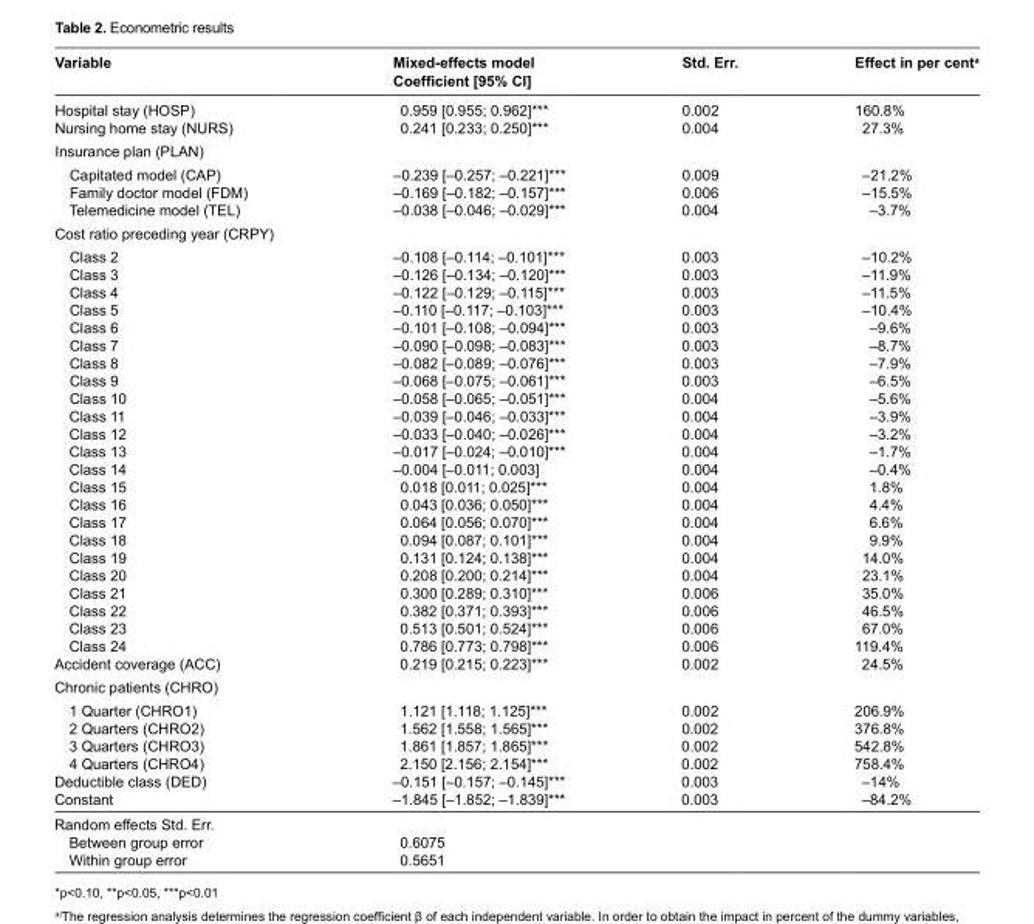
<table><thead><tr><td>Variable</td><td>Mixed-effects model Coefficient [95% CI]</td><td>Std. Err.</td><td>Effect in per cent<sup>a</sup></td></tr></thead><tbody><tr><td>Hospital stay (HOSP)</td><td>0.959 [0.955; 0.962]***</td><td>0.002</td><td>160.8%</td></tr><tr><td>Nursing home stay (NURS)</td><td>0.241 [0.233; 0.250]***</td><td>0.004</td><td>27.3%</td></tr><tr><td colspan="4">Insurance plan (PLAN)</td></tr><tr><td>Capitated model (CAP)</td><td>–0.239 [–0.257; –0.221]***</td><td>0.009</td><td>–21.2%</td></tr><tr><td>Family doctor model (FDM)</td><td>–0.169 [–0.182; –0.157]***</td><td>0.006</td><td>–15.5%</td></tr><tr><td>Telemedicine model (TEL)</td><td>–0.038 [–0.046; –0.029]***</td><td>0.004</td><td>–3.7%</td></tr><tr><td colspan="4">Cost ratio preceding year (CRPY)</td></tr><tr><td>Class 2</td><td>–0.108 [–0.114; –0.101]***</td><td>0.003</td><td>–10.2%</td></tr><tr><td>Class 3</td><td>–0.126 [–0.134; –0.120]***</td><td>0.003</td><td>–11.9%</td></tr><tr><td>Class 4</td><td>–0.122 [–0.129; –0.115]***</td><td>0.003</td><td>–11.5%</td></tr><tr><td>Class 5</td><td>–0.110 [–0.117; –0.103]***</td><td>0.003</td><td>–10.4%</td></tr><tr><td>Class 6</td><td>–0.101 [–0.108; –0.094]***</td><td>0.003</td><td>–9.6%</td></tr><tr><td>Class 7</td><td>–0.090 [–0.098; –0.083]***</td><td>0.003</td><td>–8.7%</td></tr><tr><td>Class 8</td><td>–0.082 [–0.089; –0.076]***</td><td>0.003</td><td>–7.9%</td></tr><tr><td>Class 9</td><td>–0.068 [–0.075; –0.061]***</td><td>0.003</td><td>–6.5%</td></tr><tr><td>Class 10</td><td>–0.058 [–0.065; –0.051]***</td><td>0.004</td><td>–5.6%</td></tr><tr><td>Class 11</td><td>–0.039 [–0.046; –0.033]***</td><td>0.004</td><td>–3.9%</td></tr><tr><td>Class 12</td><td>–0.033 [–0.040; –0.026]***</td><td>0.004</td><td>–3.2%</td></tr><tr><td>Class 13</td><td>–0.017 [–0.024; –0.010]***</td><td>0.004</td><td>–1.7%</td></tr><tr><td>Class 14</td><td>–0.004 [–0.011; 0.003]</td><td>0.004</td><td>–0.4%</td></tr><tr><td>Class 15</td><td>0.018 [0.011; 0.025]***</td><td>0.004</td><td>1.8%</td></tr><tr><td>Class 16</td><td>0.043 [0.036; 0.050]***</td><td>0.004</td><td>4.4%</td></tr><tr><td>Class 17</td><td>0.064 [0.056; 0.070]***</td><td>0.004</td><td>6.6%</td></tr><tr><td>Class 18</td><td>0.094 [0.087; 0.101]***</td><td>0.004</td><td>9.9%</td></tr><tr><td>Class 19</td><td>0.131 [0.124; 0.138]***</td><td>0.004</td><td>14.0%</td></tr><tr><td>Class 20</td><td>0.208 [0.200; 0.214]***</td><td>0.004</td><td>23.1%</td></tr><tr><td>Class 21</td><td>0.300 [0.289; 0.310]***</td><td>0.006</td><td>35.0%</td></tr><tr><td>Class 22</td><td>0.382 [0.371; 0.393]***</td><td>0.006</td><td>46.5%</td></tr><tr><td>Class 23</td><td>0.513 [0.501; 0.524]***</td><td>0.006</td><td>67.0%</td></tr><tr><td>Class 24</td><td>0.786 [0.773; 0.798]***</td><td>0.006</td><td>119.4%</td></tr><tr><td>Accident coverage (ACC)</td><td>0.219 [0.215; 0.223]***</td><td>0.002</td><td>24.5%</td></tr><tr><td colspan="4">Chronic patients (CHRO)</td></tr><tr><td>1 Quarter (CHRO1)</td><td>1.121 [1.118; 1.125]***</td><td>0.002</td><td>206.9%</td></tr><tr><td>2 Quarters (CHRO2)</td><td>1.562 [1.558; 1.565]***</td><td>0.002</td><td>376.8%</td></tr><tr><td>3 Quarters (CHRO3)</td><td>1.861 [1.857; 1.865]***</td><td>0.002</td><td>542.8%</td></tr><tr><td>4 Quarters (CHRO4)</td><td>2.150 [2.156; 2.154]***</td><td>0.002</td><td>758.4%</td></tr><tr><td>Deductible class (DED)</td><td>–0.151 [–0.157; –0.145]***</td><td>0.003</td><td>–14%</td></tr><tr><td>Constant</td><td>–1.845 [–1.852; –1.839]***</td><td>0.003</td><td>–84.2%</td></tr><tr><td colspan="4">Random effects Std. Err.</td></tr><tr><td>Between group error</td><td>0.6075</td><td></td><td></td></tr><tr><td>Within group error</td><td>0.5651</td><td></td><td></td></tr></tbody></table>